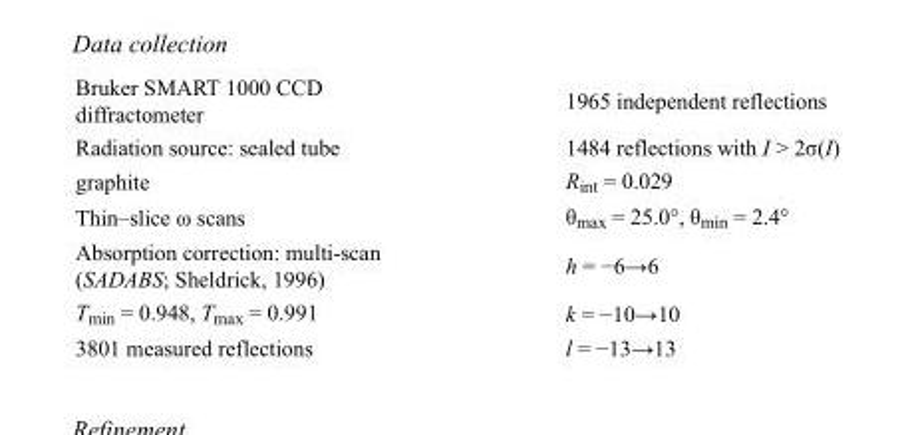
<table><tbody><tr><td>Bruker SMART 1000 CCD diffractometer</td><td>1965 independent reflections</td></tr><tr><td>Radiation source: sealed tube</td><td>1484 reflections with I &gt; 2σ(I)</td></tr><tr><td>graphite</td><td>R<sub>int</sub> = 0.029</td></tr><tr><td>Thin–slice ω scans</td><td>θ<sub>max</sub> = 25.0°, θ<sub>min</sub> = 2.4°</td></tr><tr><td>Absorption correction: multi-scan (SADABS; Sheldrick, 1996)</td><td>h = −6→6</td></tr><tr><td>T<sub>min</sub> = 0.948, T<sub>max</sub> = 0.991</td><td>k = −10→10</td></tr><tr><td>3801 measured reflections</td><td>l = −13→13</td></tr></tbody></table>